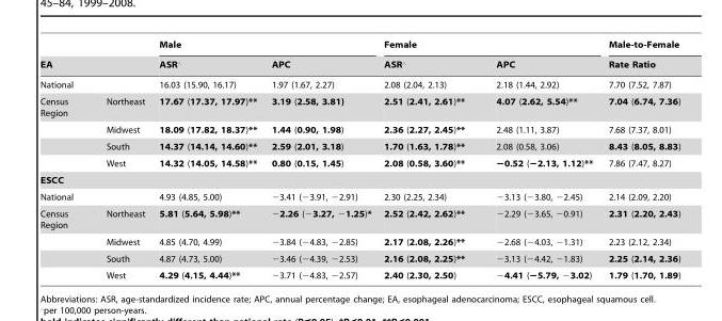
<table><thead><tr><td></td><td></td><td colspan="2">Male</td><td colspan="2">Female</td><td rowspan="2">Male-to-Female Rate Ratio</td></tr><tr><td colspan="2">EA</td><td>ASR‘</td><td>APC</td><td>ASR‘</td><td>APC</td></tr></thead><tbody><tr><td>National</td><td></td><td>16.03 (15.90, 16.17)</td><td>1.97 (1.67, 2.27)</td><td>2.08 (2.04, 2.13)</td><td>2.18 (1.44, 2.92)</td><td>7.70 (7.52, 7.87)</td></tr><tr><td rowspan="4">Census Region</td><td>Northeast</td><td>17.67 (17.37, 17.97)**</td><td>3.19 (2.58, 3.81)</td><td>2.51 (2.41, 2.61)**</td><td>4.07 (2.62, 5.54)**</td><td>7.04 (6.74, 7.36)</td></tr><tr><td>Midwest</td><td>18.09 (17.82, 18.37)**</td><td>1.44 (0.90, 1.98)</td><td>2.36 (2.27, 2.45)**</td><td>2.48 (1.11, 3.87)</td><td>7.68 (7.37, 8.01)</td></tr><tr><td>South</td><td>14.37 (14.14, 14.60)**</td><td>2.59 (2.01, 3.18)</td><td>1.70 (1.63, 1.78)**</td><td>2.08 (0.58, 3.06)</td><td>8.43 (8.05, 8.83)</td></tr><tr><td>West</td><td>14.32 (14.05, 14.58)**</td><td>0.80 (0.15, 1.45)</td><td>2.08 (0.58, 3.60)**</td><td>−0.52 (−2.13, 1.12)**</td><td>7.86 (7.47, 8.27)</td></tr><tr><td colspan="7">ESCC</td></tr><tr><td>National</td><td></td><td>4.93 (4.85, 5.00)</td><td>−3.41 (−3.91, −2.91)</td><td>2.30 (2.25, 2.34)</td><td>−3.13 (−3.80, −2.45)</td><td>2.14 (2.09, 2.20)</td></tr><tr><td rowspan="4">Census Region</td><td>Northeast</td><td>5.81 (5.64, 5.98)**</td><td>−2.26 (−3.27, −1.25)*</td><td>2.52 (2.42, 2.62)**</td><td>−2.29 (−3.65, −0.91)</td><td>2.31 (2.20, 2.43)</td></tr><tr><td>Midwest</td><td>4.85 (4.70, 4.99)</td><td>−3.84 (−4.83, −2.85)</td><td>2.17 (2.08, 2.26)**</td><td>−2.68 (−4.03, −1.31)</td><td>2.23 (2.12, 2.34)</td></tr><tr><td>South</td><td>4.87 (4.73, 5.00)</td><td>−3.46 (−4.39, −2.53)</td><td>2.16 (2.08, 2.25)**</td><td>−3.13 (−4.42, −1.83)</td><td>2.25 (2.14, 2.36)</td></tr><tr><td>West</td><td>4.29 (4.15, 4.44)**</td><td>−3.71 (−4.83, −2.57)</td><td>2.40 (2.30, 2.50)</td><td>−4.41 (−5.79, −3.02)</td><td>1.79 (1.70, 1.89)</td></tr></tbody></table>